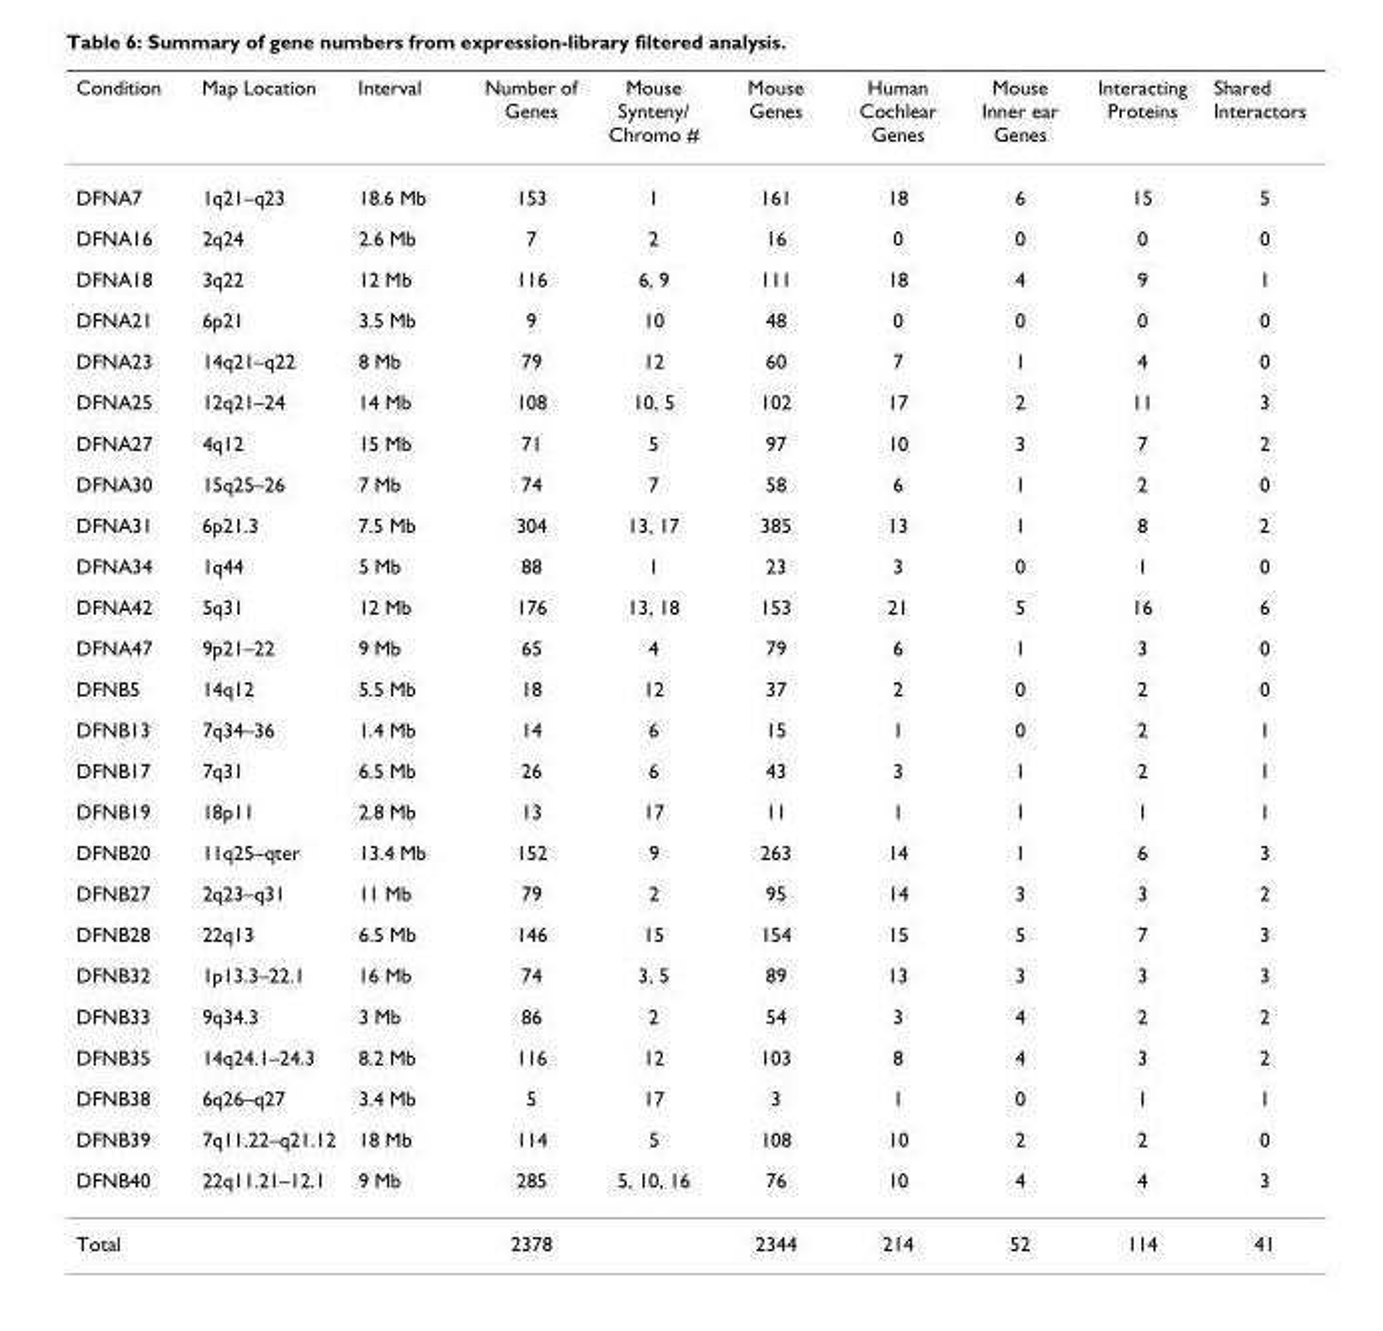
<table><thead><tr><td>Condition</td><td>Map Location</td><td>Interval</td><td>Number of Genes</td><td>Mouse Synteny/ Chromo #</td><td>Mouse Genes</td><td>Human Cochlear Genes</td><td>Mouse Inner ear Genes</td><td>Interacting Proteins</td><td>Shared Interactors</td></tr></thead><tbody><tr><td>DFNA7</td><td>1q21–q23</td><td>18.6 Mb</td><td>153</td><td>1</td><td>161</td><td>18</td><td>6</td><td>15</td><td>5</td></tr><tr><td>DFNA16</td><td>2q24</td><td>2.6 Mb</td><td>7</td><td>2</td><td>16</td><td>0</td><td>0</td><td>0</td><td>0</td></tr><tr><td>DFNA18</td><td>3q22</td><td>12 Mb</td><td>116</td><td>6, 9</td><td>111</td><td>18</td><td>4</td><td>9</td><td>1</td></tr><tr><td>DFNA21</td><td>6p21</td><td>3.5 Mb</td><td>9</td><td>10</td><td>48</td><td>0</td><td>0</td><td>0</td><td>0</td></tr><tr><td>DFNA23</td><td>14q21–q22</td><td>8 Mb</td><td>79</td><td>12</td><td>60</td><td>7</td><td>1</td><td>4</td><td>0</td></tr><tr><td>DFNA25</td><td>12q21–24</td><td>14 Mb</td><td>108</td><td>10, 5</td><td>102</td><td>17</td><td>2</td><td>11</td><td>3</td></tr><tr><td>DFNA27</td><td>4q12</td><td>15 Mb</td><td>71</td><td>5</td><td>97</td><td>10</td><td>3</td><td>7</td><td>2</td></tr><tr><td>DFNA30</td><td>15q25–26</td><td>7 Mb</td><td>74</td><td>7</td><td>58</td><td>6</td><td>1</td><td>2</td><td>0</td></tr><tr><td>DFNA31</td><td>6p21.3</td><td>7.5 Mb</td><td>304</td><td>13, 17</td><td>385</td><td>13</td><td>1</td><td>8</td><td>2</td></tr><tr><td>DFNA34</td><td>1q44</td><td>5 Mb</td><td>88</td><td>1</td><td>23</td><td>3</td><td>0</td><td>1</td><td>0</td></tr><tr><td>DFNA42</td><td>5q31</td><td>12 Mb</td><td>176</td><td>13, 18</td><td>153</td><td>21</td><td>5</td><td>16</td><td>6</td></tr><tr><td>DFNA47</td><td>9p21–22</td><td>9 Mb</td><td>65</td><td>4</td><td>79</td><td>6</td><td>1</td><td>3</td><td>0</td></tr><tr><td>DFNB5</td><td>14q12</td><td>5.5 Mb</td><td>18</td><td>12</td><td>37</td><td>2</td><td>0</td><td>2</td><td>0</td></tr><tr><td>DFNB13</td><td>7q34–36</td><td>1.4 Mb</td><td>14</td><td>6</td><td>15</td><td>1</td><td>0</td><td>2</td><td>1</td></tr><tr><td>DFNB17</td><td>7q31</td><td>6.5 Mb</td><td>26</td><td>6</td><td>43</td><td>3</td><td>1</td><td>2</td><td>1</td></tr><tr><td>DFNB19</td><td>18p11</td><td>2.8 Mb</td><td>13</td><td>17</td><td>11</td><td>1</td><td>1</td><td>1</td><td>1</td></tr><tr><td>DFNB20</td><td>11q25–qter</td><td>13.4 Mb</td><td>152</td><td>9</td><td>263</td><td>14</td><td>1</td><td>6</td><td>3</td></tr><tr><td>DFNB27</td><td>2q23–q31</td><td>11 Mb</td><td>79</td><td>2</td><td>95</td><td>14</td><td>3</td><td>3</td><td>2</td></tr><tr><td>DFNB28</td><td>22q13</td><td>6.5 Mb</td><td>146</td><td>15</td><td>154</td><td>15</td><td>5</td><td>7</td><td>3</td></tr><tr><td>DFNB32</td><td>1p13.3–22.1</td><td>16 Mb</td><td>74</td><td>3, 5</td><td>89</td><td>13</td><td>3</td><td>3</td><td>3</td></tr><tr><td>DFNB33</td><td>9q34.3</td><td>3 Mb</td><td>86</td><td>2</td><td>54</td><td>3</td><td>4</td><td>2</td><td>2</td></tr><tr><td>DFNB35</td><td>14q24.1–24.3</td><td>8.2 Mb</td><td>116</td><td>12</td><td>103</td><td>8</td><td>4</td><td>3</td><td>2</td></tr><tr><td>DFNB38</td><td>6q26–q27</td><td>3.4 Mb</td><td>5</td><td>17</td><td>3</td><td>1</td><td>0</td><td>1</td><td>1</td></tr><tr><td>DFNB39</td><td>7q11.22–q21.12</td><td>18 Mb</td><td>114</td><td>5</td><td>108</td><td>10</td><td>2</td><td>2</td><td>0</td></tr><tr><td>DFNB40</td><td>22q11.21–12.1</td><td>9 Mb</td><td>285</td><td>5, 10, 16</td><td>76</td><td>10</td><td>4</td><td>4</td><td>3</td></tr><tr><td>Total</td><td></td><td></td><td>2378</td><td></td><td>2344</td><td>214</td><td>52</td><td>114</td><td>41</td></tr></tbody></table>